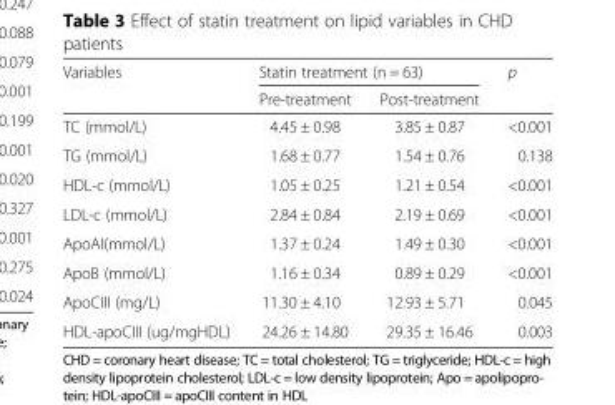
<table><thead><tr><td rowspan="2">Variables</td><td colspan="2">Statin treatment (n = 63)</td><td rowspan="2">p</td></tr><tr><td>Pre-treatment</td><td>Post-treatment</td></tr></thead><tbody><tr><td>TC (mmol/L)</td><td>4.45 ± 0.98</td><td>3.85 ± 0.87</td><td>&lt;0.001</td></tr><tr><td>TG (mmol/L)</td><td>1.68 ± 0.77</td><td>1.54 ± 0.76</td><td>0.138</td></tr><tr><td>HDL-c (mmol/L)</td><td>1.05 ± 0.25</td><td>1.21 ± 0.54</td><td>&lt;0.001</td></tr><tr><td>LDL-c (mmol/L)</td><td>2.84 ± 0.84</td><td>2.19 ± 0.69</td><td>&lt;0.001</td></tr><tr><td>ApoAI(mmol/L)</td><td>1.37 ± 0.24</td><td>1.49 ± 0.30</td><td>&lt;0.001</td></tr><tr><td>ApoB (mmol/L)</td><td>1.16 ± 0.34</td><td>0.89 ± 0.29</td><td>&lt;0.001</td></tr><tr><td>ApoCIII (mg/L)</td><td>11.30 ± 4.10</td><td>12.93 ± 5.71</td><td>0.045</td></tr><tr><td>HDL-apoCIII (ug/mgHDL)</td><td>24.26 ± 14.80</td><td>29.35 ± 16.46</td><td>0.003</td></tr></tbody></table>